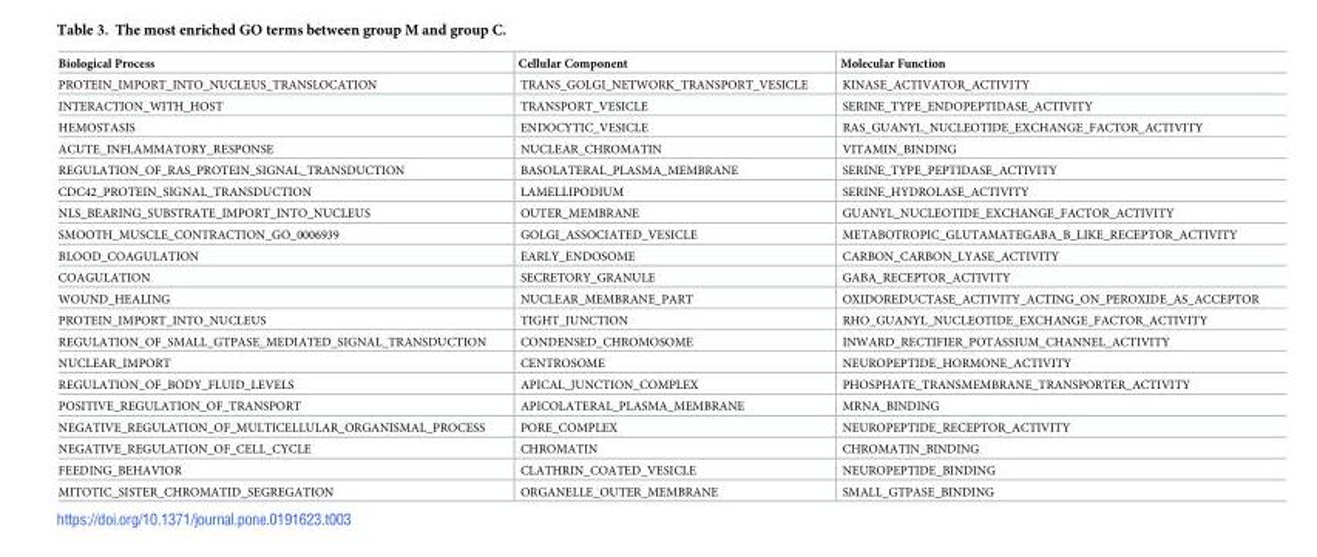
<table><thead><tr><td>Biological Process</td><td>Cellular Component</td><td>Molecular Function</td></tr></thead><tbody><tr><td>PROTEIN_IMPORT_INTO_NUCLEUS_TRANSLOCATION</td><td>TRANS_GOLGI_NETWORK_TRANSPORT_VESICLE</td><td>KINASE_ACTIVATOR_ACTIVITY</td></tr><tr><td>INTERACTION_WITH_HOST</td><td>TRANSPORT_VESICLE</td><td>SERINE_TYPE_ENDOPEPTIDASE_ACTIVITY</td></tr><tr><td>HEMOSTASIS</td><td>ENDOCYTIC_VESICLE</td><td>RAS_GUANYL_NUCLEOTIDE_EXCHANGE_FACTOR_ACTIVITY</td></tr><tr><td>ACUTE_INFLAMMATORY_RESPONSE</td><td>NUCLEAR_CHROMATIN</td><td>VITAMIN_BINDING</td></tr><tr><td>REGULATION_OF_RAS_PROTEIN_SIGNAL_TRANSDUCTION</td><td>BASOLATERAL_PLASMA_MEMBRANE</td><td>SERINE_TYPE_PEPTIDASE_ACTIVITY</td></tr><tr><td>CDC42_PROTEIN_SIGNAL_TRANSDUCTION</td><td>LAMELLIPODIUM</td><td>SERINE_HYDROLASE_ACTIVITY</td></tr><tr><td>NLS_BEARING_SUBSTRATE_IMPORT_INTO_NUCLEUS</td><td>OUTER_MEMBRANE</td><td>GUANYL_NUCLEOTIDE_EXCHANGE_FACTOR_ACTIVITY</td></tr><tr><td>SMOOTH_MUSCLE_CONTRACTION_GO_0006939</td><td>GOLGI_ASSOCIATED_VESICLE</td><td>METABOTROPIC_GLUTAMATEGABA_B_LIKE_RECEPTOR_ACTIVITY</td></tr><tr><td>BLOOD_COAGULATION</td><td>EARLY_ENDOSOME</td><td>CARBON_CARBON_LYASE_ACTIVITY</td></tr><tr><td>COAGULATION</td><td>SECRETORY_GRANULE</td><td>GABA_RECEPTOR_ACTIVITY</td></tr><tr><td>WOUND_HEALING</td><td>NUCLEAR_MEMBRANE_PART</td><td>OXIDOREDUCTASE_ACTIVITY_ACTING_ON_PEROXIDE_AS_ACCEPTOR</td></tr><tr><td>PROTEIN_IMPORT_INTO_NUCLEUS</td><td>TIGHT_JUNCTION</td><td>RHO_GUANYL_NUCLEOTIDE_EXCHANGE_FACTOR_ACTIVITY</td></tr><tr><td>REGULATION_OF_SMALL_GTPASE_MEDIATED_SIGNAL_TRANSDUCTION</td><td>CONDENSED_CHROMOSOME</td><td>INWARD_RECTIFIER_POTASSIUM_CHANNEL_ACTIVITY</td></tr><tr><td>NUCLEAR_IMPORT</td><td>CENTROSOME</td><td>NEUROPEPTIDE_HORMONE_ACTIVITY</td></tr><tr><td>REGULATION_OF_BODY_FLUID_LEVELS</td><td>APICAL_JUNCTION_COMPLEX</td><td>PHOSPHATE_TRANSMEMBRANE_TRANSPORTER_ACTIVITY</td></tr><tr><td>POSITIVE_REGULATION_OF_TRANSPORT</td><td>APICOLATERAL_PLASMA_MEMBRANE</td><td>MRNA_BINDING</td></tr><tr><td>NEGATIVE_REGULATION_OF_MULTICELLULAR_ORGANISMAL_PROCESS</td><td>PORE_COMPLEX</td><td>NEUROPEPTIDE_RECEPTOR_ACTIVITY</td></tr><tr><td>NEGATIVE_REGULATION_OF_CELL_CYCLE</td><td>CHROMATIN</td><td>CHROMATIN_BINDING</td></tr><tr><td>FEEDING_BEHAVIOR</td><td>CLATHRIN_COATED_VESICLE</td><td>NEUROPEPTIDE_BINDING</td></tr><tr><td>MITOTIC_SISTER_CHROMATID_SEGREGATION</td><td>ORGANELLE_OUTER_MEMBRANE</td><td>SMALL_GTPASE_BINDING</td></tr></tbody></table>